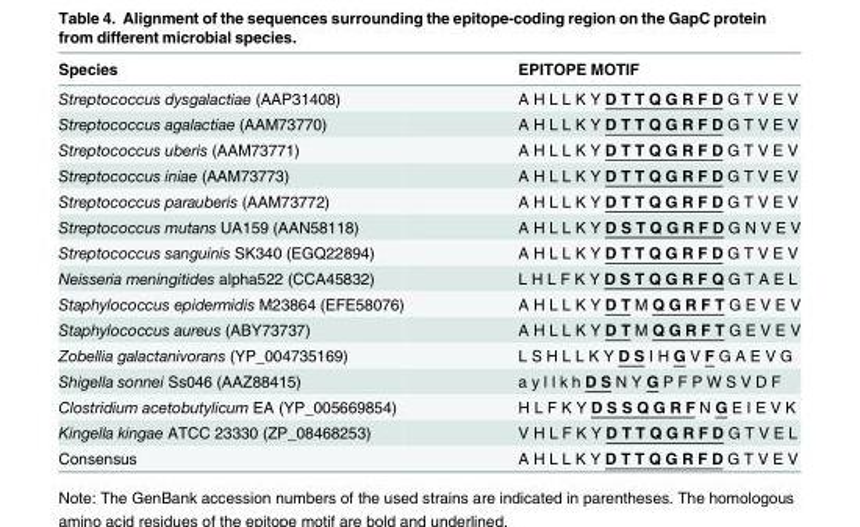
<table><thead><tr><td>Species</td><td>EPITOPE MOTIF</td></tr></thead><tbody><tr><td>Streptococcus dysgalactiae (AAP31408)</td><td>A H L L K Y D T T Q G R F D G T V E V</td></tr><tr><td>Streptococcus agalactiae (AAM73770)</td><td>A H L L K Y D T T Q G R F D G T V E V</td></tr><tr><td>Streptococcus uberis (AAM73771)</td><td>A H L L K Y D T T Q G R F D G T V E V</td></tr><tr><td>Streptococcus iniae (AAM73773)</td><td>A H L L K Y D T T Q G R F D G T V E V</td></tr><tr><td>Streptococcus parauberis (AAM73772)</td><td>A H L L K Y D T T Q G R F D G T V E V</td></tr><tr><td>Streptococcus mutans UA159 (AAN58118)</td><td>A H L L K Y D S T Q G R F D G N V E V</td></tr><tr><td>Streptococcus sanguinis SK340 (EGQ22894)</td><td>A H L L K Y D T T Q G R F D G T V E V</td></tr><tr><td>Neisseria meningitides alpha522 (CCA45832)</td><td>L H L F K Y D S T Q G R F Q G T A E L</td></tr><tr><td>Staphylococcus epidermidis M23864 (EFE58076)</td><td>A H L L K Y D T M Q G R F T G E V E V</td></tr><tr><td>Staphylococcus aureus (ABY73737)</td><td>A H L L K Y D T M Q G R F T G E V E V</td></tr><tr><td>Zobellia galactanivorans (YP_004735169)</td><td>L S H L L K Y D S I H G V F G A E V G</td></tr><tr><td>Shigella sonnei Ss046 (AAZ88415)</td><td>a y l l k h D S N Y G P F P W S V D F</td></tr><tr><td>Clostridium acetobutylicum EA (YP_005669854)</td><td>H L F K Y D S S Q G R F N G E I E V K</td></tr><tr><td>Kingella kingae ATCC 23330 (ZP_08468253)</td><td>V H L F K Y D T T Q G R F D G T V E L</td></tr><tr><td>Consensus</td><td>A H L L K Y D T T Q G R F D G T V E V</td></tr></tbody></table>